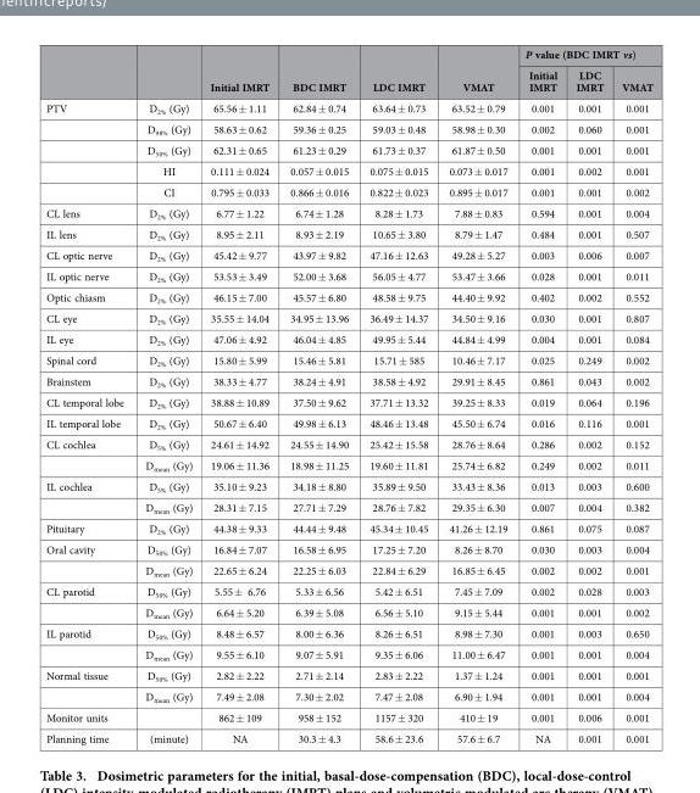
<table><thead><tr><td rowspan="2"></td><td rowspan="2"></td><td rowspan="2">Initial IMRT</td><td rowspan="2">BDC IMRT</td><td rowspan="2">LDC IMRT</td><td rowspan="2">VMAT</td><td colspan="3">P value (BDC IMRT vs)</td></tr><tr><td>Initial IMRT</td><td>LDC IMRT</td><td>VMAT</td></tr></thead><tbody><tr><td rowspan="5">PTV</td><td>D<sub>2%</sub> (Gy)</td><td>65.56 ± 1.11</td><td>62.84 ± 0.74</td><td>63.64 ± 0.73</td><td>63.52 ± 0.79</td><td>0.001</td><td>0.001</td><td>0.001</td></tr><tr><td>D<sub>98%</sub> (Gy)</td><td>58.63 ± 0.62</td><td>59.36 ± 0.25</td><td>59.03 ± 0.48</td><td>58.98 ± 0.30</td><td>0.002</td><td>0.060</td><td>0.001</td></tr><tr><td>D<sub>50%</sub> (Gy)</td><td>62.31 ± 0.65</td><td>61.23 ± 0.29</td><td>61.73 ± 0.37</td><td>61.87 ± 0.50</td><td>0.001</td><td>0.001</td><td>0.001</td></tr><tr><td>HI</td><td>0.111 ± 0.024</td><td>0.057 ± 0.015</td><td>0.075 ± 0.015</td><td>0.073 ± 0.017</td><td>0.001</td><td>0.002</td><td>0.001</td></tr><tr><td>CI</td><td>0.795 ± 0.033</td><td>0.866 ± 0.016</td><td>0.822 ± 0.023</td><td>0.895 ± 0.017</td><td>0.001</td><td>0.001</td><td>0.002</td></tr><tr><td>CL lens</td><td>D<sub>2%</sub> (Gy)</td><td>6.77 ± 1.22</td><td>6.74 ± 1.28</td><td>8.28 ± 1.73</td><td>7.88 ± 0.83</td><td>0.594</td><td>0.001</td><td>0.004</td></tr><tr><td>IL lens</td><td>D<sub>2%</sub> (Gy)</td><td>8.95 ± 2.11</td><td>8.93 ± 2.19</td><td>10.65 ± 3.80</td><td>8.79 ± 1.47</td><td>0.484</td><td>0.001</td><td>0.507</td></tr><tr><td>CL optic nerve</td><td>D<sub>2%</sub> (Gy)</td><td>45.42 ± 9.77</td><td>43.97 ± 9.82</td><td>47.16 ± 12.63</td><td>49.28 ± 5.27</td><td>0.003</td><td>0.006</td><td>0.007</td></tr><tr><td>IL optic nerve</td><td>D<sub>2%</sub> (Gy)</td><td>53.53 ± 3.49</td><td>52.00 ± 3.68</td><td>56.05 ± 4.77</td><td>53.47 ± 3.66</td><td>0.028</td><td>0.001</td><td>0.011</td></tr><tr><td>Optic chiasm</td><td>D<sub>2%</sub> (Gy)</td><td>46.15 ± 7.00</td><td>45.57 ± 6.80</td><td>48.58 ± 9.75</td><td>44.40 ± 9.92</td><td>0.402</td><td>0.002</td><td>0.552</td></tr><tr><td>CL eye</td><td>D<sub>2%</sub> (Gy)</td><td>35.55 ± 14.04</td><td>34.95 ± 13.96</td><td>36.49 ± 14.37</td><td>34.50 ± 9.16</td><td>0.030</td><td>0.001</td><td>0.807</td></tr><tr><td>IL eye</td><td>D<sub>2%</sub> (Gy)</td><td>47.06 ± 4.92</td><td>46.04 ± 4.85</td><td>49.95 ± 5.44</td><td>44.84 ± 4.99</td><td>0.004</td><td>0.001</td><td>0.084</td></tr><tr><td>Spinal cord</td><td>D<sub>2%</sub> (Gy)</td><td>15.80 ± 5.99</td><td>15.46 ± 5.81</td><td>15.71 ± 585</td><td>10.46 ± 7.17</td><td>0.025</td><td>0.249</td><td>0.002</td></tr><tr><td>Brainstem</td><td>D<sub>2%</sub> (Gy)</td><td>38.33 ± 4.77</td><td>38.24 ± 4.91</td><td>38.58 ± 4.92</td><td>29.91 ± 8.45</td><td>0.861</td><td>0.043</td><td>0.002</td></tr><tr><td>CL temporal lobe</td><td>D<sub>2%</sub> (Gy)</td><td>38.88 ± 10.89</td><td>37.50 ± 9.62</td><td>37.71 ± 13.32</td><td>39.25 ± 8.33</td><td>0.019</td><td>0.064</td><td>0.196</td></tr><tr><td>IL temporal lobe</td><td>D<sub>2%</sub> (Gy)</td><td>50.67 ± 6.40</td><td>49.98 ± 6.13</td><td>48.46 ± 13.48</td><td>45.50 ± 6.74</td><td>0.016</td><td>0.116</td><td>0.001</td></tr><tr><td rowspan="2">CL cochlea</td><td>D<sub>5%</sub> (Gy)</td><td>24.61 ± 14.92</td><td>24.55 ± 14.90</td><td>25.42 ± 15.58</td><td>28.76 ± 8.64</td><td>0.286</td><td>0.002</td><td>0.152</td></tr><tr><td>D<sub>mean</sub> (Gy)</td><td>19.06 ± 11.36</td><td>18.98 ± 11.25</td><td>19.60 ± 11.81</td><td>25.74 ± 6.82</td><td>0.249</td><td>0.002</td><td>0.011</td></tr><tr><td rowspan="2">IL cochlea</td><td>D<sub>5%</sub> (Gy)</td><td>35.10 ± 9.23</td><td>34.18 ± 8.80</td><td>35.89 ± 9.50</td><td>33.43 ± 8.36</td><td>0.013</td><td>0.003</td><td>0.600</td></tr><tr><td>D<sub>mean</sub> (Gy)</td><td>28.31 ± 7.15</td><td>27.71 ± 7.29</td><td>28.76 ± 7.82</td><td>29.35 ± 6.30</td><td>0.007</td><td>0.004</td><td>0.382</td></tr><tr><td>Pituitary</td><td>D<sub>2%</sub> (Gy)</td><td>44.38 ± 9.33</td><td>44.44 ± 9.48</td><td>45.34 ± 10.45</td><td>41.26 ± 12.19</td><td>0.861</td><td>0.075</td><td>0.087</td></tr><tr><td rowspan="2">Oral cavity</td><td>D<sub>50%</sub> (Gy)</td><td>16.84 ± 7.07</td><td>16.58 ± 6.95</td><td>17.25 ± 7.20</td><td>8.26 ± 8.70</td><td>0.030</td><td>0.003</td><td>0.004</td></tr><tr><td>D<sub>mean</sub> (Gy)</td><td>22.65 ± 6.24</td><td>22.25 ± 6.03</td><td>22.84 ± 6.29</td><td>16.85 ± 6.45</td><td>0.002</td><td>0.002</td><td>0.001</td></tr><tr><td rowspan="2">CL parotid</td><td>D<sub>50%</sub> (Gy)</td><td>5.55 ± 6.76</td><td>5.33 ± 6.56</td><td>5.42 ± 6.51</td><td>7.45 ± 7.09</td><td>0.002</td><td>0.028</td><td>0.003</td></tr><tr><td>D<sub>mean</sub> (Gy)</td><td>6.64 ± 5.20</td><td>6.39 ± 5.08</td><td>6.56 ± 5.10</td><td>9.15 ± 5.44</td><td>0.001</td><td>0.001</td><td>0.002</td></tr><tr><td rowspan="2">IL parotid</td><td>D<sub>50%</sub> (Gy)</td><td>8.48 ± 6.57</td><td>8.00 ± 6.36</td><td>8.26 ± 6.51</td><td>8.98 ± 7.30</td><td>0.001</td><td>0.003</td><td>0.650</td></tr><tr><td>D<sub>mean</sub> (Gy)</td><td>9.55 ± 6.10</td><td>9.07 ± 5.91</td><td>9.35 ± 6.06</td><td>11.00 ± 6.47</td><td>0.001</td><td>0.001</td><td>0.004</td></tr><tr><td rowspan="2">Normal tissue</td><td>D<sub>50%</sub> (Gy)</td><td>2.82 ± 2.22</td><td>2.71 ± 2.14</td><td>2.83 ± 2.22</td><td>1.37 ± 1.24</td><td>0.001</td><td>0.001</td><td>0.001</td></tr><tr><td>D<sub>mean</sub> (Gy)</td><td>7.49 ± 2.08</td><td>7.30 ± 2.02</td><td>7.47 ± 2.08</td><td>6.90 ± 1.94</td><td>0.001</td><td>0.001</td><td>0.004</td></tr><tr><td>Monitor units</td><td></td><td>862 ± 109</td><td>958 ± 152</td><td>1157 ± 320</td><td>410 ± 19</td><td>0.001</td><td>0.006</td><td>0.001</td></tr><tr><td>Planning time</td><td>(minute)</td><td>NA</td><td>30.3 ± 4.3</td><td>58.6 ± 23.6</td><td>57.6 ± 6.7</td><td>NA</td><td>0.001</td><td>0.001</td></tr></tbody></table>